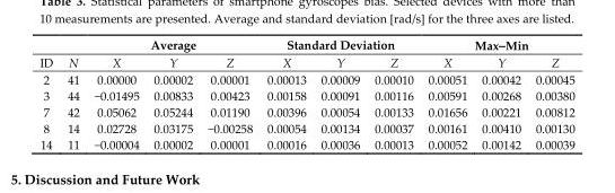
<table><thead><tr><td rowspan="2">ID</td><td rowspan="2">N</td><td colspan="3">Average</td><td colspan="3">Standard Deviation</td><td colspan="3">Max–Min</td></tr><tr><td>X</td><td>Y</td><td>Z</td><td>X</td><td>Y</td><td>Z</td><td>X</td><td>Y</td><td>Z</td></tr></thead><tbody><tr><td>2</td><td>41</td><td>0.00000</td><td>0.00002</td><td>0.00001</td><td>0.00013</td><td>0.00009</td><td>0.00010</td><td>0.00051</td><td>0.00042</td><td>0.00045</td></tr><tr><td>3</td><td>44</td><td>−0.01495</td><td>0.00833</td><td>0.00423</td><td>0.00158</td><td>0.00091</td><td>0.00116</td><td>0.00591</td><td>0.00268</td><td>0.00380</td></tr><tr><td>7</td><td>42</td><td>0.05062</td><td>0.05244</td><td>0.01190</td><td>0.00396</td><td>0.00054</td><td>0.00133</td><td>0.01656</td><td>0.00221</td><td>0.00812</td></tr><tr><td>8</td><td>14</td><td>0.02728</td><td>0.03175</td><td>−0.00258</td><td>0.00054</td><td>0.00134</td><td>0.00037</td><td>0.00161</td><td>0.00410</td><td>0.00130</td></tr><tr><td>14</td><td>11</td><td>−0.00004</td><td>0.00002</td><td>0.00001</td><td>0.00016</td><td>0.00036</td><td>0.00013</td><td>0.00052</td><td>0.00142</td><td>0.00039</td></tr></tbody></table>